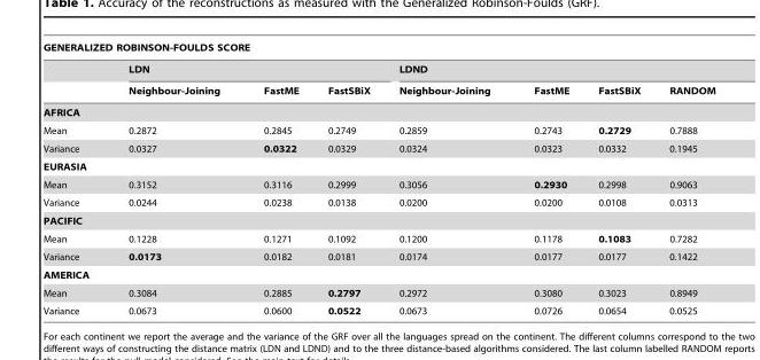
<table><thead><tr><td colspan="8">GENERALIZED ROBINSON-FOULDS SCORE</td></tr><tr><td rowspan="2"></td><td colspan="3">LDN</td><td colspan="4">LDND</td></tr><tr><td>Neighbour-Joining</td><td>FastME</td><td>FastSBiX</td><td>Neighbour-Joining</td><td>FastME</td><td>FastSBiX</td><td>RANDOM</td></tr></thead><tbody><tr><td colspan="8">AFRICA</td></tr><tr><td>Mean</td><td>0.2872</td><td>0.2845</td><td>0.2749</td><td>0.2859</td><td>0.2743</td><td>0.2729</td><td>0.7888</td></tr><tr><td>Variance</td><td>0.0327</td><td>0.0322</td><td>0.0329</td><td>0.0324</td><td>0.0323</td><td>0.0332</td><td>0.1945</td></tr><tr><td colspan="8">EURASIA</td></tr><tr><td>Mean</td><td>0.3152</td><td>0.3116</td><td>0.2999</td><td>0.3056</td><td>0.2930</td><td>0.2998</td><td>0.9063</td></tr><tr><td>Variance</td><td>0.0244</td><td>0.0238</td><td>0.0138</td><td>0.0200</td><td>0.0200</td><td>0.0108</td><td>0.0313</td></tr><tr><td colspan="8">PACIFIC</td></tr><tr><td>Mean</td><td>0.1228</td><td>0.1271</td><td>0.1092</td><td>0.1200</td><td>0.1178</td><td>0.1083</td><td>0.7282</td></tr><tr><td>Variance</td><td>0.0173</td><td>0.0182</td><td>0.0181</td><td>0.0174</td><td>0.0177</td><td>0.0177</td><td>0.1422</td></tr><tr><td colspan="8">AMERICA</td></tr><tr><td>Mean</td><td>0.3084</td><td>0.2885</td><td>0.2797</td><td>0.2972</td><td>0.3080</td><td>0.3023</td><td>0.8949</td></tr><tr><td>Variance</td><td>0.0673</td><td>0.0600</td><td>0.0522</td><td>0.0673</td><td>0.0726</td><td>0.0654</td><td>0.0525</td></tr></tbody></table>